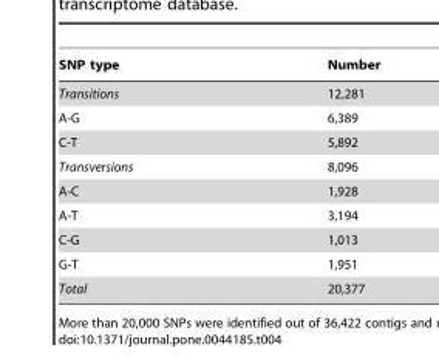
<table><thead><tr><td>SNP type</td><td>Number</td></tr></thead><tbody><tr><td>Transitions</td><td>12,281</td></tr><tr><td>A-G</td><td>6,389</td></tr><tr><td>C-T</td><td>5,892</td></tr><tr><td>Transversions</td><td>8,096</td></tr><tr><td>A-C</td><td>1,928</td></tr><tr><td>A-T</td><td>3,194</td></tr><tr><td>C-G</td><td>1,013</td></tr><tr><td>G-T</td><td>1,951</td></tr><tr><td>Total</td><td>20,377</td></tr></tbody></table>